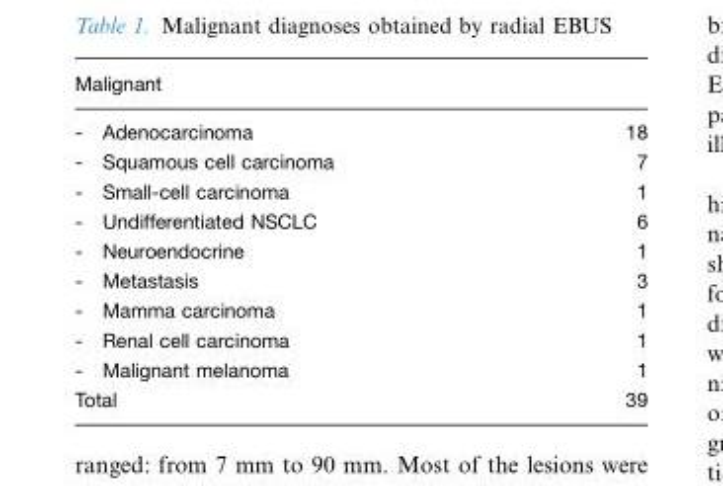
<table><thead><tr><td>Malignant</td><td></td></tr></thead><tbody><tr><td>- Adenocarcinoma</td><td>18</td></tr><tr><td>- Squamous cell carcinoma</td><td>7</td></tr><tr><td>- Small-cell carcinoma</td><td>1</td></tr><tr><td>- Undifferentiated NSCLC</td><td>6</td></tr><tr><td>- Neuroendocrine</td><td>1</td></tr><tr><td>- Metastasis</td><td>3</td></tr><tr><td>- Mamma carcinoma</td><td>1</td></tr><tr><td>- Renal cell carcinoma</td><td>1</td></tr><tr><td>- Malignant melanoma</td><td>1</td></tr><tr><td>Total</td><td>39</td></tr></tbody></table>